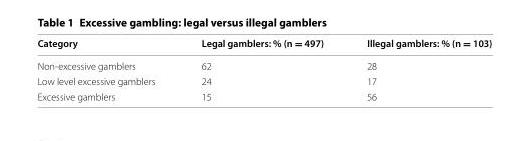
<table><thead><tr><td>Category</td><td>Legal gamblers: % (n = 497)</td><td>Illegal gamblers: % (n = 103)</td></tr></thead><tbody><tr><td>Non-excessive gamblers</td><td>62</td><td>28</td></tr><tr><td>Low level excessive gamblers</td><td>24</td><td>17</td></tr><tr><td>Excessive gamblers</td><td>15</td><td>56</td></tr></tbody></table>